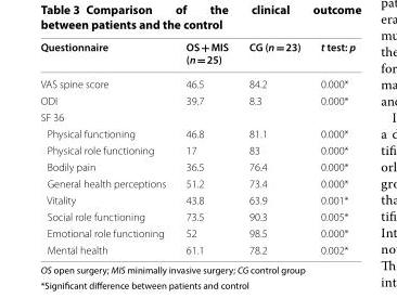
<table><thead><tr><td>Questionnaire</td><td>OS + MIS (n = 25)</td><td>CG (n = 23)</td><td>t test: p</td></tr></thead><tbody><tr><td>VAS spine score</td><td>46.5</td><td>84.2</td><td>0.000*</td></tr><tr><td>ODI</td><td>39.7</td><td>8.3</td><td>0.000*</td></tr><tr><td colspan="4">SF 36</td></tr><tr><td>Physical functioning</td><td>46.8</td><td>81.1</td><td>0.000*</td></tr><tr><td>Physical role functioning</td><td>17</td><td>83</td><td>0.000*</td></tr><tr><td>Bodily pain</td><td>36.5</td><td>76.4</td><td>0.000*</td></tr><tr><td>General health perceptions</td><td>51.2</td><td>73.4</td><td>0.000*</td></tr><tr><td>Vitality</td><td>43.8</td><td>63.9</td><td>0.001*</td></tr><tr><td>Social role functioning</td><td>73.5</td><td>90.3</td><td>0.005*</td></tr><tr><td>Emotional role functioning</td><td>52</td><td>98.5</td><td>0.000*</td></tr><tr><td>Mental health</td><td>61.1</td><td>78.2</td><td>0.002*</td></tr></tbody></table>